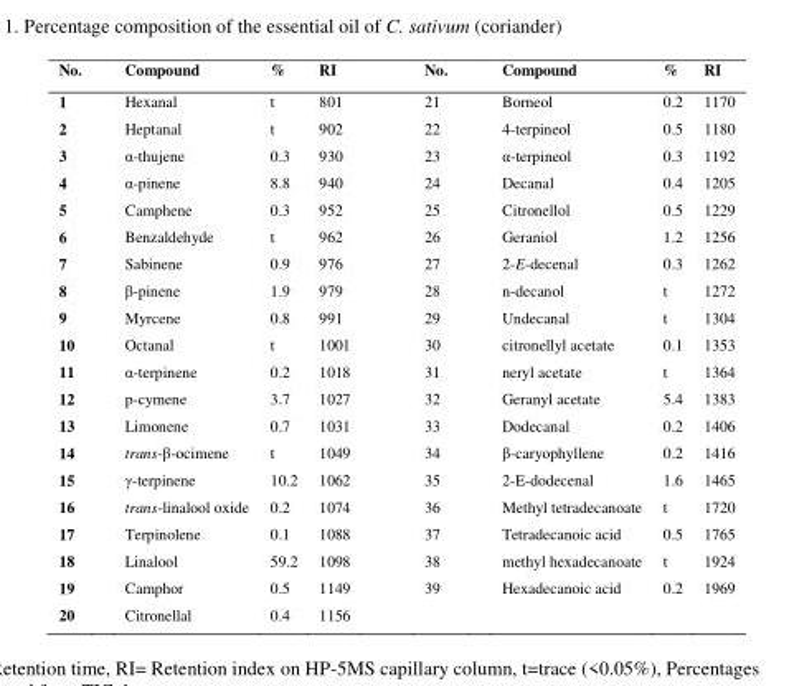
<table><thead><tr><td>No.</td><td>Compound</td><td>%</td><td>RI</td><td>No.</td><td>Compound</td><td>%</td><td>RI</td></tr></thead><tbody><tr><td>1</td><td>Hexanal</td><td>t</td><td>801</td><td>21</td><td>Borneol</td><td>0.2</td><td>1170</td></tr><tr><td>2</td><td>Heptanal</td><td>t</td><td>902</td><td>22</td><td>4-terpineol</td><td>0.5</td><td>1180</td></tr><tr><td>3</td><td>α-thujene</td><td>0.3</td><td>930</td><td>23</td><td>α-terpineol</td><td>0.3</td><td>1192</td></tr><tr><td>4</td><td>α-pinene</td><td>8.8</td><td>940</td><td>24</td><td>Decanal</td><td>0.4</td><td>1205</td></tr><tr><td>5</td><td>Camphene</td><td>0.3</td><td>952</td><td>25</td><td>Citronellol</td><td>0.5</td><td>1229</td></tr><tr><td>6</td><td>Benzaldehyde</td><td>t</td><td>962</td><td>26</td><td>Geraniol</td><td>1.2</td><td>1256</td></tr><tr><td>7</td><td>Sabinene</td><td>0.9</td><td>976</td><td>27</td><td>2-E-decenal</td><td>0.3</td><td>1262</td></tr><tr><td>8</td><td>β-pinene</td><td>1.9</td><td>979</td><td>28</td><td>n-decanol</td><td>t</td><td>1272</td></tr><tr><td>9</td><td>Myrcene</td><td>0.8</td><td>991</td><td>29</td><td>Undecanal</td><td>t</td><td>1304</td></tr><tr><td>10</td><td>Octanal</td><td>t</td><td>1001</td><td>30</td><td>citronellyl acetate</td><td>0.1</td><td>1353</td></tr><tr><td>11</td><td>α-terpinene</td><td>0.2</td><td>1018</td><td>31</td><td>neryl acetate</td><td>t</td><td>1364</td></tr><tr><td>12</td><td>p-cymene</td><td>3.7</td><td>1027</td><td>32</td><td>Geranyl acetate</td><td>5.4</td><td>1383</td></tr><tr><td>13</td><td>Limonene</td><td>0.7</td><td>1031</td><td>33</td><td>Dodecanal</td><td>0.2</td><td>1406</td></tr><tr><td>14</td><td>trans-β-ocimene</td><td>t</td><td>1049</td><td>34</td><td>β-caryophyllene</td><td>0.2</td><td>1416</td></tr><tr><td>15</td><td>γ-terpinene</td><td>10.2</td><td>1062</td><td>35</td><td>2-E-dodecenal</td><td>1.6</td><td>1465</td></tr><tr><td>16</td><td>trans-linalool oxide</td><td>0.2</td><td>1074</td><td>36</td><td>Methyl tetradecanoate</td><td>t</td><td>1720</td></tr><tr><td>17</td><td>Terpinolene</td><td>0.1</td><td>1088</td><td>37</td><td>Tetradecanoic acid</td><td>0.5</td><td>1765</td></tr><tr><td>18</td><td>Linalool</td><td>59.2</td><td>1098</td><td>38</td><td>methyl hexadecanoate</td><td>t</td><td>1924</td></tr><tr><td>19</td><td>Camphor</td><td>0.5</td><td>1149</td><td>39</td><td>Hexadecanoic acid</td><td>0.2</td><td>1969</td></tr><tr><td>20</td><td>Citronellal</td><td>0.4</td><td>1156</td><td></td><td></td><td></td><td></td></tr></tbody></table>